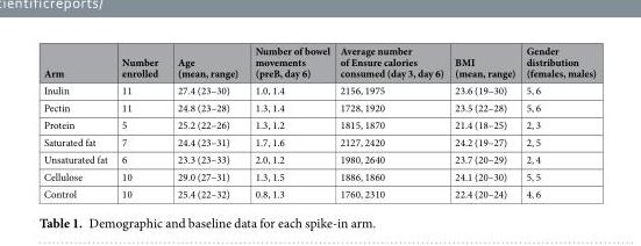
<table><thead><tr><td>Arm</td><td>Number enrolled</td><td>Age (mean, range)</td><td>Number of bowel movements (preB, day 6)</td><td>Average number of Ensure calories consumed (day 3, day 6)</td><td>BMI (mean, range)</td><td>Gender distribution (females, males)</td></tr></thead><tbody><tr><td>Inulin</td><td>11</td><td>27.4 (23–30)</td><td>1.0, 1.4</td><td>2156, 1975</td><td>23.6 (19–30)</td><td>5, 6</td></tr><tr><td>Pectin</td><td>11</td><td>24.8 (23–28)</td><td>1.3, 1.4</td><td>1728, 1920</td><td>23.5 (22–28)</td><td>5, 6</td></tr><tr><td>Protein</td><td>5</td><td>25.2 (22–26)</td><td>1.3, 1.2</td><td>1815, 1870</td><td>21.4 (18–25)</td><td>2, 3</td></tr><tr><td>Saturated fat</td><td>7</td><td>24.4 (23–31)</td><td>1.7, 1.6</td><td>2127, 2420</td><td>24.2 (19–27)</td><td>2, 5</td></tr><tr><td>Unsaturated fat</td><td>6</td><td>23.3 (23–33)</td><td>2.0, 1.2</td><td>1980, 2640</td><td>23.7 (20–29)</td><td>2, 4</td></tr><tr><td>Cellulose</td><td>10</td><td>29.0 (27–31)</td><td>1.3, 1.5</td><td>1886, 1860</td><td>24.1 (20–30)</td><td>5, 5</td></tr><tr><td>Control</td><td>10</td><td>25.4 (22–32)</td><td>0.8, 1.3</td><td>1760, 2310</td><td>22.4 (20–24)</td><td>4, 6</td></tr></tbody></table>